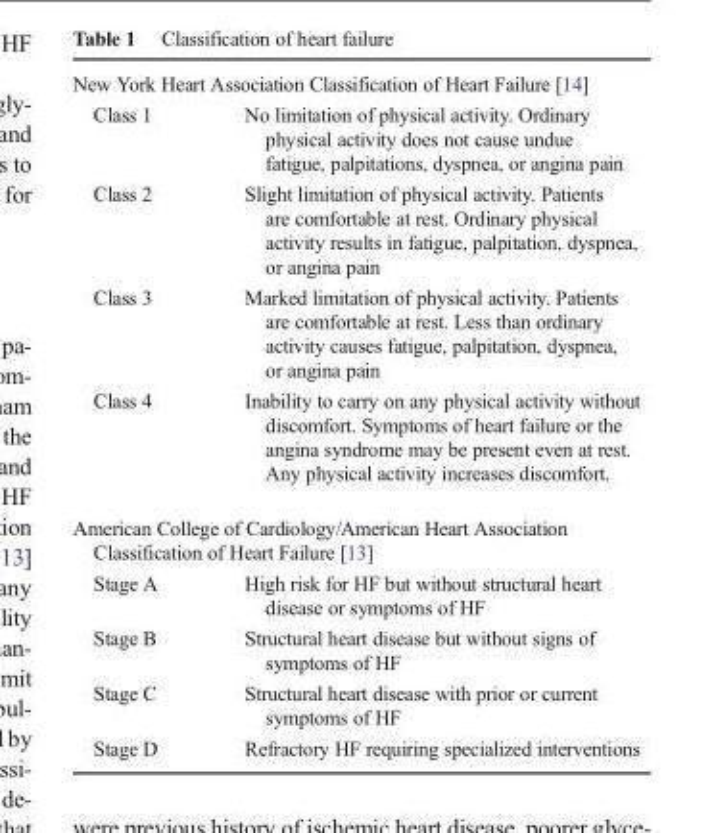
<table><tbody><tr><td colspan="2">New York Heart Association Classification of Heart Failure [14]</td></tr><tr><td>Class 1</td><td>No limitation of physical activity. Ordinary physical activity does not cause undue fatigue, palpitations, dyspnea, or angina pain</td></tr><tr><td>Class 2</td><td>Slight limitation of physical activity. Patients are comfortable at rest. Ordinary physical activity results in fatigue, palpitation, dyspnea, or angina pain</td></tr><tr><td>Class 3</td><td>Marked limitation of physical activity. Patients are comfortable at rest. Less than ordinary activity causes fatigue, palpitation, dyspnea, or angina pain</td></tr><tr><td>Class 4</td><td>Inability to carry on any physical activity without discomfort. Symptoms of heart failure or the angina syndrome may be present even at rest. Any physical activity increases discomfort.</td></tr><tr><td colspan="2">American College of Cardiology/American Heart Association Classification of Heart Failure [13]</td></tr><tr><td>Stage A</td><td>High risk for HF but without structural heart disease or symptoms of HF</td></tr><tr><td>Stage B</td><td>Structural heart disease but without signs of symptoms of HF</td></tr><tr><td>Stage C</td><td>Structural heart disease with prior or current symptoms of HF</td></tr><tr><td>Stage D</td><td>Refractory HF requiring specialized interventions</td></tr></tbody></table>